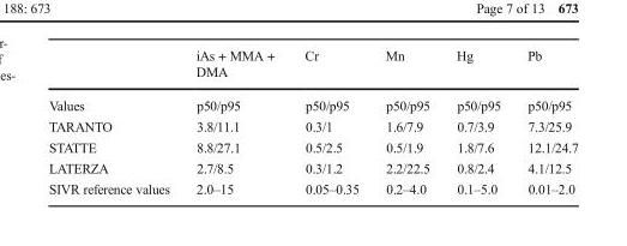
<table><thead><tr><td></td><td>iAs + MMA + DMA</td><td>Cr</td><td>Mn</td><td>Hg</td><td>Pb</td></tr></thead><tbody><tr><td>Values</td><td>p50/p95</td><td>p50/p95</td><td>p50/p95</td><td>p50/p95</td><td>p50/p95</td></tr><tr><td>TARANTO</td><td>3.8/11.1</td><td>0.3/1</td><td>1.6/7.9</td><td>0.7/3.9</td><td>7.3/25.9</td></tr><tr><td>STATTE</td><td>8.8/27.1</td><td>0.5/2.5</td><td>0.5/1.9</td><td>1.8/7.6</td><td>12.1/24.7</td></tr><tr><td>LATERZA</td><td>2.7/8.5</td><td>0.3/1.2</td><td>2.2/22.5</td><td>0.8/2.4</td><td>4.1/12.5</td></tr><tr><td>SIVR reference values</td><td>2.0–15</td><td>0.05–0.35</td><td>0.2–4.0</td><td>0.1–5.0</td><td>0.01–2.0</td></tr></tbody></table>